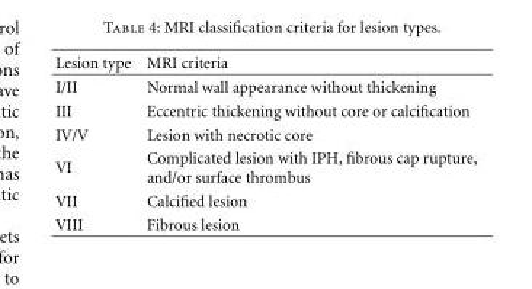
<table><thead><tr><td>Lesion type</td><td>MRI criteria</td></tr></thead><tbody><tr><td>I/II</td><td>Normal wall appearance without thickening</td></tr><tr><td>III</td><td>Eccentric thickening without core or calcification</td></tr><tr><td>IV/V</td><td>Lesion with necrotic core</td></tr><tr><td>VI</td><td>Complicated lesion with IPH, fibrous cap rupture, and/or surface thrombus</td></tr><tr><td>VII</td><td>Calcified lesion</td></tr><tr><td>VIII</td><td>Fibrous lesion</td></tr></tbody></table>